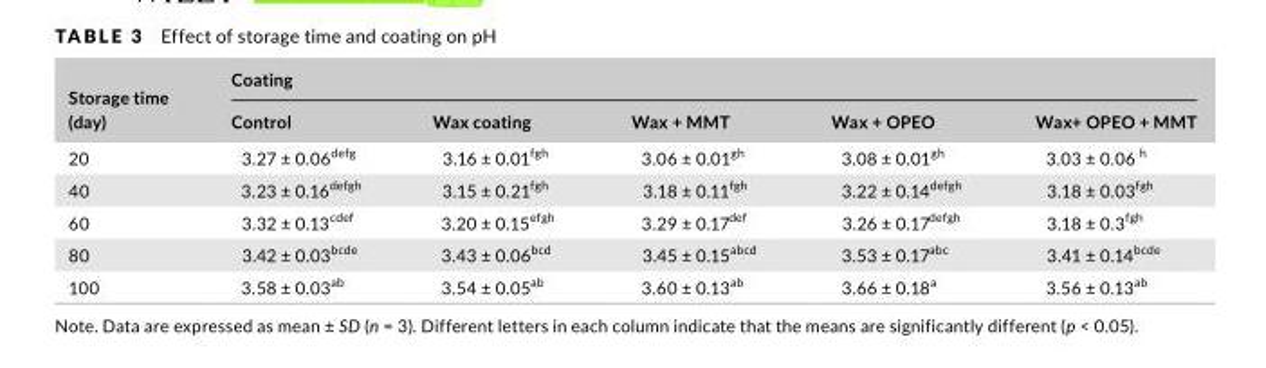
<table><thead><tr><td rowspan="2">Storage time (day)</td><td colspan="5">Coating</td></tr><tr><td>Control</td><td>Wax coating</td><td>Wax + MMT</td><td>Wax + OPEO</td><td>Wax+ OPEO + MMT</td></tr></thead><tbody><tr><td>20</td><td>3.27 ± 0.06<sup>defg</sup></td><td>3.16 ± 0.01<sup>fgh</sup></td><td>3.06 ± 0.01<sup>gh</sup></td><td>3.08 ± 0.01<sup>gh</sup></td><td>3.03 ± 0.06 <sup>h</sup></td></tr><tr><td>40</td><td>3.23 ± 0.16<sup>defgh</sup></td><td>3.15 ± 0.21<sup>fgh</sup></td><td>3.18 ± 0.11<sup>fgh</sup></td><td>3.22 ± 0.14<sup>defgh</sup></td><td>3.18 ± 0.03<sup>fgh</sup></td></tr><tr><td>60</td><td>3.32 ± 0.13<sup>cdef</sup></td><td>3.20 ± 0.15<sup>efgh</sup></td><td>3.29 ± 0.17<sup>def</sup></td><td>3.26 ± 0.17<sup>defgh</sup></td><td>3.18 ± 0.3<sup>fgh</sup></td></tr><tr><td>80</td><td>3.42 ± 0.03<sup>bcde</sup></td><td>3.43 ± 0.06<sup>bcd</sup></td><td>3.45 ± 0.15<sup>abcd</sup></td><td>3.53 ± 0.17<sup>abc</sup></td><td>3.41 ± 0.14<sup>bcde</sup></td></tr><tr><td>100</td><td>3.58 ± 0.03<sup>ab</sup></td><td>3.54 ± 0.05<sup>ab</sup></td><td>3.60 ± 0.13<sup>ab</sup></td><td>3.66 ± 0.18<sup>a</sup></td><td>3.56 ± 0.13<sup>ab</sup></td></tr></tbody></table>